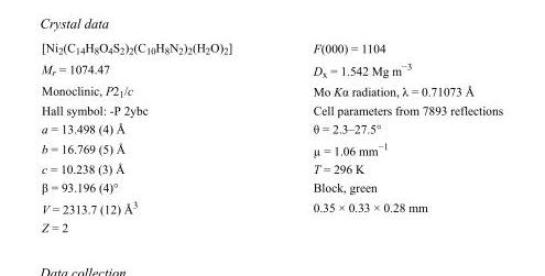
<table><tbody><tr><td>[Ni<sub>2</sub>(C<sub>14</sub>H<sub>8</sub>O<sub>4</sub>S<sub>2</sub>)<sub>2</sub>(C<sub>10</sub>H<sub>8</sub>N<sub>2</sub>)<sub>2</sub>(H<sub>2</sub>O)<sub>2</sub>]</td><td>F(000) = 1104</td></tr><tr><td>M<sub>r</sub> = 1074.47</td><td>D<sub>x</sub> = 1.542 Mg m<sup>−3</sup></td></tr><tr><td>Monoclinic, P2<sub>1</sub>/c</td><td>Mo Kα radiation, λ = 0.71073 Å</td></tr><tr><td>Hall symbol: -P 2ybc</td><td>Cell parameters from 7893 reflections</td></tr><tr><td>a = 13.498 (4) Å</td><td>θ = 2.3–27.5°</td></tr><tr><td>b = 16.769 (5) Å</td><td>µ = 1.06 mm<sup>−1</sup></td></tr><tr><td>c = 10.238 (3) Å</td><td>T = 296 K</td></tr><tr><td>β = 93.196 (4)°</td><td>Block, green</td></tr><tr><td>V = 2313.7 (12) Å<sup>3</sup></td><td>0.35 × 0.33 × 0.28 mm</td></tr><tr><td>Z = 2</td><td></td></tr></tbody></table>